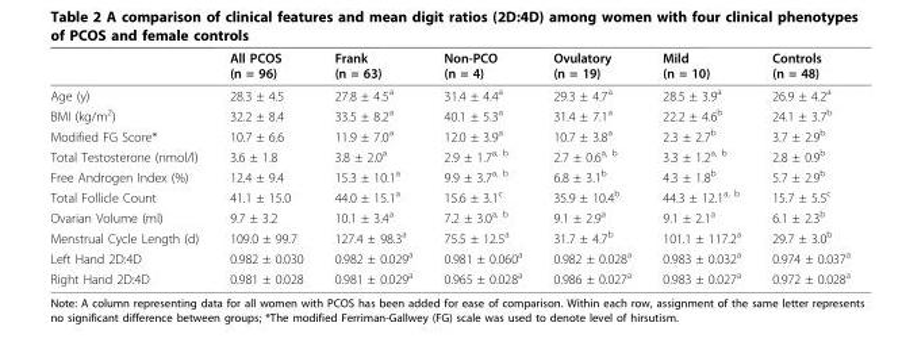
<table><thead><tr><td></td><td>All PCOS (n = 96)</td><td>Frank (n = 63)</td><td>Non-PCO (n = 4)</td><td>Ovulatory (n = 19)</td><td>Mild (n = 10)</td><td>Controls (n = 48)</td></tr></thead><tbody><tr><td>Age (y)</td><td>28.3 ± 4.5</td><td>27.8 ± 4.5<sup>a</sup></td><td>31.4 ± 4.4<sup>a</sup></td><td>29.3 ± 4.7<sup>a</sup></td><td>28.5 ± 3.9<sup>a</sup></td><td>26.9 ± 4.2<sup>a</sup></td></tr><tr><td>BMI (kg/m<sup>2</sup>)</td><td>32.2 ± 8.4</td><td>33.5 ± 8.2<sup>a</sup></td><td>40.1 ± 5.3<sup>a</sup></td><td>31.4 ± 7.1<sup>a</sup></td><td>22.2 ± 4.6<sup>b</sup></td><td>24.1 ± 3.7<sup>b</sup></td></tr><tr><td>Modified FG Score*</td><td>10.7 ± 6.6</td><td>11.9 ± 7.0<sup>a</sup></td><td>12.0 ± 3.9<sup>a</sup></td><td>10.7 ± 3.8<sup>a</sup></td><td>2.3 ± 2.7<sup>b</sup></td><td>3.7 ± 2.9<sup>b</sup></td></tr><tr><td>Total Testosterone (nmol/l)</td><td>3.6 ± 1.8</td><td>3.8 ± 2.0<sup>a</sup></td><td>2.9 ± 1.7<sup>a, b</sup></td><td>2.7 ± 0.6<sup>a, b</sup></td><td>3.3 ± 1.2<sup>a, b</sup></td><td>2.8 ± 0.9<sup>b</sup></td></tr><tr><td>Free Androgen Index (%)</td><td>12.4 ± 9.4</td><td>15.3 ± 10.1<sup>a</sup></td><td>9.9 ± 3.7<sup>a, b</sup></td><td>6.8 ± 3.1<sup>b</sup></td><td>4.3 ± 1.8<sup>b</sup></td><td>5.7 ± 2.9<sup>b</sup></td></tr><tr><td>Total Follicle Count</td><td>41.1 ± 15.0</td><td>44.0 ± 15.1<sup>a</sup></td><td>15.6 ± 3.1<sup>c</sup></td><td>35.9 ± 10.4<sup>b</sup></td><td>44.3 ± 12.1<sup>a, b</sup></td><td>15.7 ± 5.5<sup>c</sup></td></tr><tr><td>Ovarian Volume (ml)</td><td>9.7 ± 3.2</td><td>10.1 ± 3.4<sup>a</sup></td><td>7.2 ± 3.0<sup>a, b</sup></td><td>9.1 ± 2.9<sup>a</sup></td><td>9.1 ± 2.1<sup>a</sup></td><td>6.1 ± 2.3<sup>b</sup></td></tr><tr><td>Menstrual Cycle Length (d)</td><td>109.0 ± 99.7</td><td>127.4 ± 98.3<sup>a</sup></td><td>75.5 ± 12.5<sup>a</sup></td><td>31.7 ± 4.7<sup>b</sup></td><td>101.1 ± 117.2<sup>a</sup></td><td>29.7 ± 3.0<sup>b</sup></td></tr><tr><td>Left Hand 2D:4D</td><td>0.982 ± 0.030</td><td>0.982 ± 0.029<sup>a</sup></td><td>0.981 ± 0.060<sup>a</sup></td><td>0.982 ± 0.028<sup>a</sup></td><td>0.983 ± 0.032<sup>a</sup></td><td>0.974 ± 0.037<sup>a</sup></td></tr><tr><td>Right Hand 2D:4D</td><td>0.981 ± 0.028</td><td>0.981 ± 0.029<sup>a</sup></td><td>0.965 ± 0.028<sup>a</sup></td><td>0.986 ± 0.027<sup>a</sup></td><td>0.983 ± 0.027<sup>a</sup></td><td>0.972 ± 0.028<sup>a</sup></td></tr></tbody></table>